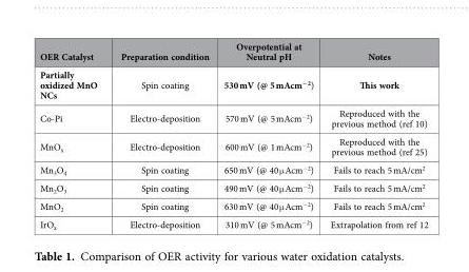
<table><thead><tr><td>OER Catalyst</td><td>Preparation condition</td><td>Overpotential at Neutral pH</td><td>Notes</td></tr></thead><tbody><tr><td>Partially oxidized MnO NCs</td><td>Spin coating</td><td>530 mV (@ 5 mAcm<sup>−2</sup>)</td><td>This work</td></tr><tr><td>Co-Pi</td><td>Electro-deposition</td><td>570 mV (@ 5 mAcm<sup>−2</sup>)</td><td>Reproduced with the previous method (ref 10)</td></tr><tr><td>MnO<sub>x</sub></td><td>Electro-deposition</td><td>600 mV (@ 1 mAcm<sup>−2</sup>)</td><td>Reproduced with the previous method (ref 25)</td></tr><tr><td>Mn<sub>3</sub>O<sub>4</sub></td><td>Spin coating</td><td>650 mV (@ 40 μ Acm<sup>−2</sup>)</td><td>Fails to reach 5 mA/cm<sup>2</sup></td></tr><tr><td>Mn<sub>2</sub>O<sub>3</sub></td><td>Spin coating</td><td>490 mV (@ 40 μ Acm<sup>−2</sup>)</td><td>Fails to reach 5 mA/cm<sup>2</sup></td></tr><tr><td>MnO<sub>2</sub></td><td>Spin coating</td><td>630 mV (@ 40 μ Acm<sup>−2</sup>)</td><td>Fails to reach 5 mA/cm<sup>2</sup></td></tr><tr><td>IrO<sub>x</sub></td><td>Electro-deposition</td><td>310 mV (@ 5 mAcm<sup>−2</sup>)</td><td>Extrapolation from ref 12</td></tr></tbody></table>